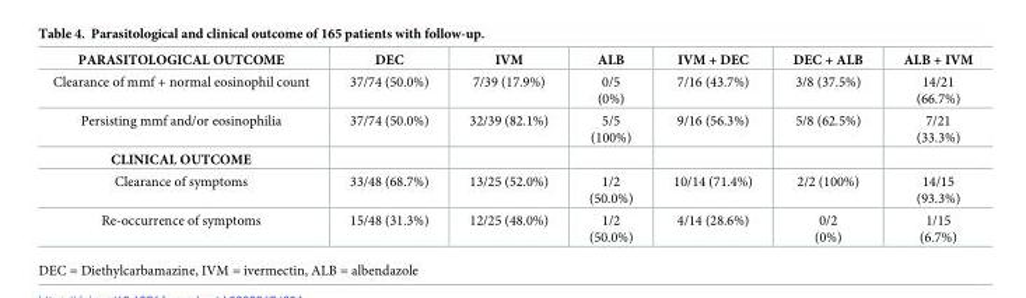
<table><thead><tr><td>PARASITOLOGICAL OUTCOME</td><td>DEC</td><td>IVM</td><td>ALB</td><td>IVM + DEC</td><td>DEC + ALB</td><td>ALB + IVM</td></tr></thead><tbody><tr><td>Clearance of mmf + normal eosinophil count</td><td>37/74 (50.0%)</td><td>7/39 (17.9%)</td><td>0/5 (0%)</td><td>7/16 (43.7%)</td><td>3/8 (37.5%)</td><td>14/21 (66.7%)</td></tr><tr><td>Persisting mmf and/or eosinophilia</td><td>37/74 (50.0%)</td><td>32/39 (82.1%)</td><td>5/5 (100%)</td><td>9/16 (56.3%)</td><td>5/8 (62.5%)</td><td>7/21 (33.3%)</td></tr><tr><td colspan="7">CLINICAL OUTCOME</td></tr><tr><td>Clearance of symptoms</td><td>33/48 (68.7%)</td><td>13/25 (52.0%)</td><td>1/2 (50.0%)</td><td>10/14 (71.4%)</td><td>2/2 (100%)</td><td>14/15 (93.3%)</td></tr><tr><td>Re-occurrence of symptoms</td><td>15/48 (31.3%)</td><td>12/25 (48.0%)</td><td>1/2 (50.0%)</td><td>4/14 (28.6%)</td><td>0/2 (0%)</td><td>1/15 (6.7%)</td></tr></tbody></table>